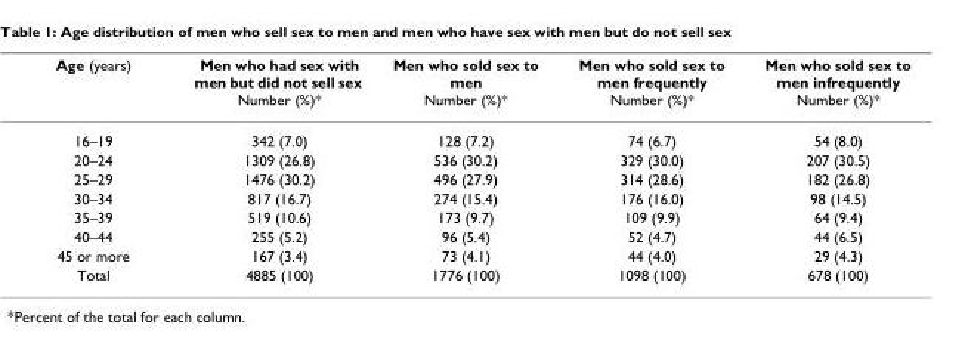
<table><thead><tr><td>Age (years)</td><td>Men who had sex with men but did not sell sex Number (%)*</td><td>Men who sold sex to men Number (%)*</td><td>Men who sold sex to men frequently Number (%)*</td><td>Men who sold sex to men infrequently Number (%)*</td></tr></thead><tbody><tr><td>16–19</td><td>342 (7.0)</td><td>128 (7.2)</td><td>74 (6.7)</td><td>54 (8.0)</td></tr><tr><td>20–24</td><td>1309 (26.8)</td><td>536 (30.2)</td><td>329 (30.0)</td><td>207 (30.5)</td></tr><tr><td>25–29</td><td>1476 (30.2)</td><td>496 (27.9)</td><td>314 (28.6)</td><td>182 (26.8)</td></tr><tr><td>30–34</td><td>817 (16.7)</td><td>274 (15.4)</td><td>176 (16.0)</td><td>98 (14.5)</td></tr><tr><td>35–39</td><td>519 (10.6)</td><td>173 (9.7)</td><td>109 (9.9)</td><td>64 (9.4)</td></tr><tr><td>40–44</td><td>255 (5.2)</td><td>96 (5.4)</td><td>52 (4.7)</td><td>44 (6.5)</td></tr><tr><td>45 or more</td><td>167 (3.4)</td><td>73 (4.1)</td><td>44 (4.0)</td><td>29 (4.3)</td></tr><tr><td>Total</td><td>4885 (100)</td><td>1776 (100)</td><td>1098 (100)</td><td>678 (100)</td></tr></tbody></table>